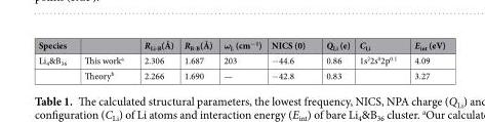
<table><thead><tr><td>Species</td><td></td><td>R<sub>Li-B</sub>(Å)</td><td>R<sub>B-B</sub>(Å)</td><td>ω<sub>L</sub> (cm<sup>−1</sup>)</td><td>NICS (0)</td><td>Q<sub>Li</sub> (e)</td><td>C<sub>Li</sub></td><td>E<sub>int</sub> (eV)</td></tr></thead><tbody><tr><td rowspan="2">Li<sub>4</sub>&amp;B<sub>36</sub></td><td>This work<sup>a</sup></td><td>2.306</td><td>1.687</td><td>203</td><td>−44.6</td><td>0.86</td><td>1s<sup>2</sup>2s02p0<sup>.1</sup></td><td>4.09</td></tr><tr><td>Theory<sup>b</sup></td><td>2.266</td><td>1.690</td><td>—</td><td>−42.8</td><td>0.83</td><td></td><td>3.27</td></tr></tbody></table>